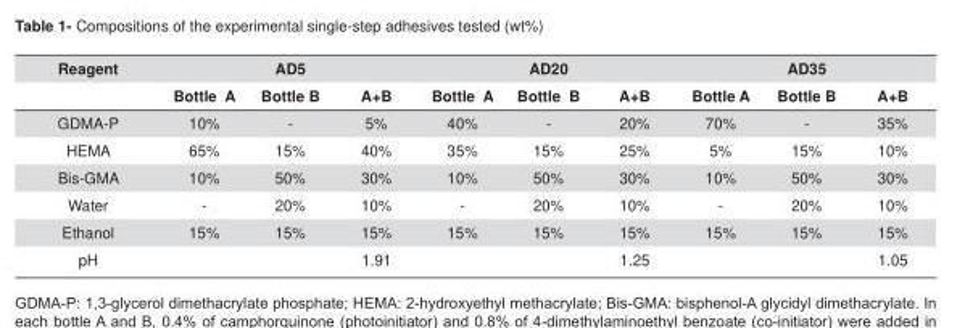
<table><thead><tr><td rowspan="2">Reagent</td><td colspan="3">AD5</td><td colspan="3">AD20</td><td colspan="3">AD35</td></tr><tr><td>Bottle A</td><td>Bottle B</td><td>A+B</td><td>Bottle A</td><td>Bottle B</td><td>A+B</td><td>Bottle A</td><td>Bottle B</td><td>A+B</td></tr></thead><tbody><tr><td>GDMA-P</td><td>10%</td><td>-</td><td>5%</td><td>40%</td><td>-</td><td>20%</td><td>70%</td><td>-</td><td>35%</td></tr><tr><td>HEMA</td><td>65%</td><td>15%</td><td>40%</td><td>35%</td><td>15%</td><td>25%</td><td>5%</td><td>15%</td><td>10%</td></tr><tr><td>Bis-GMA</td><td>10%</td><td>50%</td><td>30%</td><td>10%</td><td>50%</td><td>30%</td><td>10%</td><td>50%</td><td>30%</td></tr><tr><td>Water</td><td>-</td><td>20%</td><td>10%</td><td>-</td><td>20%</td><td>10%</td><td>-</td><td>20%</td><td>10%</td></tr><tr><td>Ethanol</td><td>15%</td><td>15%</td><td>15%</td><td>15%</td><td>15%</td><td>15%</td><td>15%</td><td>15%</td><td>15%</td></tr><tr><td>pH</td><td></td><td></td><td>1.91</td><td></td><td></td><td>1.25</td><td></td><td></td><td>1.05</td></tr></tbody></table>